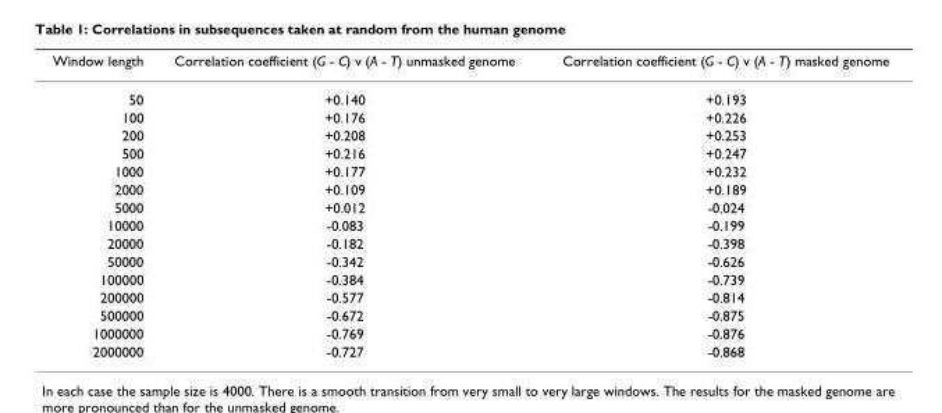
<table><thead><tr><td>Window length</td><td>Correlation coefficient (G - C) v (A - T) unmasked genome</td><td>Correlation coefficient (G - C) v (A - T) masked genome</td></tr></thead><tbody><tr><td>50</td><td>+0.140</td><td>+0.193</td></tr><tr><td>100</td><td>+0.176</td><td>+0.226</td></tr><tr><td>200</td><td>+0.208</td><td>+0.253</td></tr><tr><td>500</td><td>+0.216</td><td>+0.247</td></tr><tr><td>1000</td><td>+0.177</td><td>+0.232</td></tr><tr><td>2000</td><td>+0.109</td><td>+0.189</td></tr><tr><td>5000</td><td>+0.012</td><td>-0.024</td></tr><tr><td>10000</td><td>-0.083</td><td>-0.199</td></tr><tr><td>20000</td><td>-0.182</td><td>-0.398</td></tr><tr><td>50000</td><td>-0.342</td><td>-0.626</td></tr><tr><td>100000</td><td>-0.384</td><td>-0.739</td></tr><tr><td>200000</td><td>-0.577</td><td>-0.814</td></tr><tr><td>500000</td><td>-0.672</td><td>-0.875</td></tr><tr><td>1000000</td><td>-0.769</td><td>-0.876</td></tr><tr><td>2000000</td><td>-0.727</td><td>-0.868</td></tr></tbody></table>